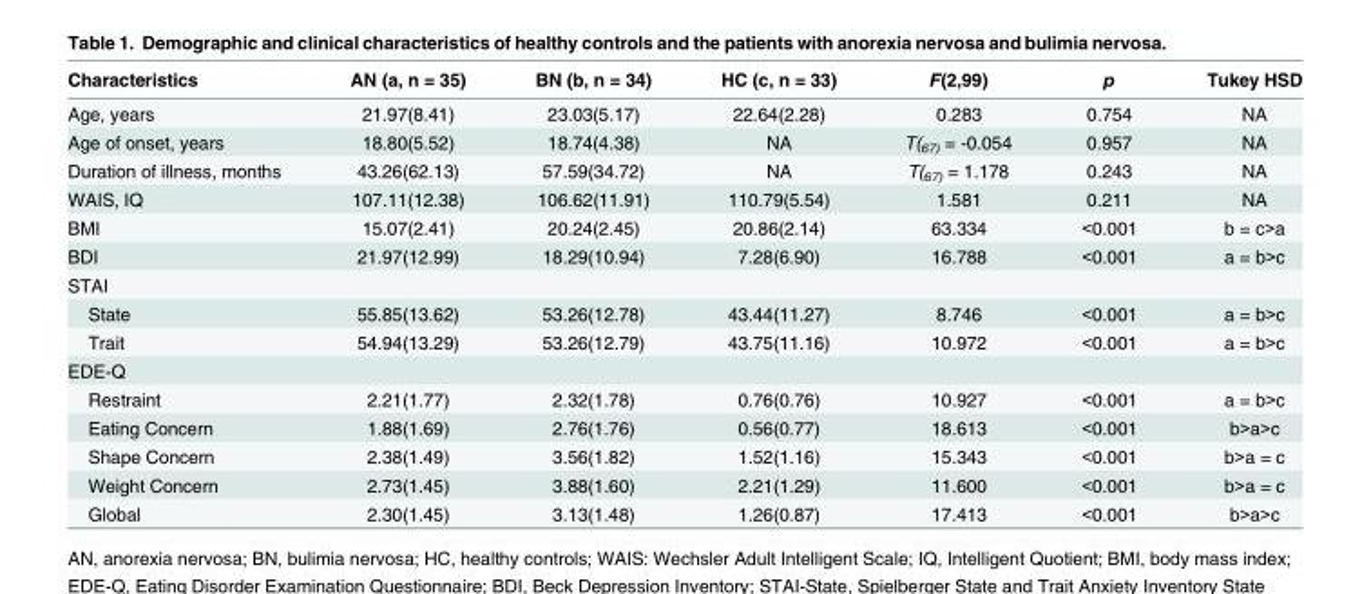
<table><thead><tr><td>Characteristics</td><td>AN (a, n = 35)</td><td>BN (b, n = 34)</td><td>HC (c, n = 33)</td><td>F(2,99)</td><td>p</td><td>Tukey HSD</td></tr></thead><tbody><tr><td>Age, years</td><td>21.97(8.41)</td><td>23.03(5.17)</td><td>22.64(2.28)</td><td>0.283</td><td>0.754</td><td>NA</td></tr><tr><td>Age of onset, years</td><td>18.80(5.52)</td><td>18.74(4.38)</td><td>NA</td><td>T(<sub>67)</sub> = -0.054</td><td>0.957</td><td>NA</td></tr><tr><td>Duration of illness, months</td><td>43.26(62.13)</td><td>57.59(34.72)</td><td>NA</td><td>T(<sub>67)</sub> = 1.178</td><td>0.243</td><td>NA</td></tr><tr><td>WAIS, IQ</td><td>107.11(12.38)</td><td>106.62(11.91)</td><td>110.79(5.54)</td><td>1.581</td><td>0.211</td><td>NA</td></tr><tr><td>BMI</td><td>15.07(2.41)</td><td>20.24(2.45)</td><td>20.86(2.14)</td><td>63.334</td><td>&lt;0.001</td><td>b = c&gt;a</td></tr><tr><td>BDI</td><td>21.97(12.99)</td><td>18.29(10.94)</td><td>7.28(6.90)</td><td>16.788</td><td>&lt;0.001</td><td>a = b&gt;c</td></tr><tr><td colspan="7">STAI</td></tr><tr><td>State</td><td>55.85(13.62)</td><td>53.26(12.78)</td><td>43.44(11.27)</td><td>8.746</td><td>&lt;0.001</td><td>a = b&gt;c</td></tr><tr><td>Trait</td><td>54.94(13.29)</td><td>53.26(12.79)</td><td>43.75(11.16)</td><td>10.972</td><td>&lt;0.001</td><td>a = b&gt;c</td></tr><tr><td colspan="7">EDE-Q</td></tr><tr><td>Restraint</td><td>2.21(1.77)</td><td>2.32(1.78)</td><td>0.76(0.76)</td><td>10.927</td><td>&lt;0.001</td><td>a = b&gt;c</td></tr><tr><td>Eating Concern</td><td>1.88(1.69)</td><td>2.76(1.76)</td><td>0.56(0.77)</td><td>18.613</td><td>&lt;0.001</td><td>b&gt;a&gt;c</td></tr><tr><td>Shape Concern</td><td>2.38(1.49)</td><td>3.56(1.82)</td><td>1.52(1.16)</td><td>15.343</td><td>&lt;0.001</td><td>b&gt;a = c</td></tr><tr><td>Weight Concern</td><td>2.73(1.45)</td><td>3.88(1.60)</td><td>2.21(1.29)</td><td>11.600</td><td>&lt;0.001</td><td>b&gt;a = c</td></tr><tr><td>Global</td><td>2.30(1.45)</td><td>3.13(1.48)</td><td>1.26(0.87)</td><td>17.413</td><td>&lt;0.001</td><td>b&gt;a&gt;c</td></tr></tbody></table>